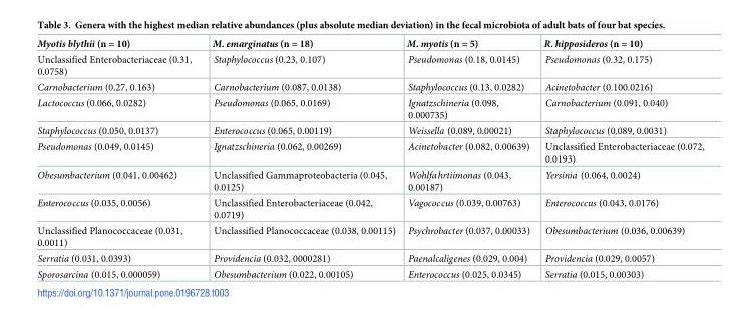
<table><thead><tr><td>Myotis blythii (n = 10)</td><td>M. emarginatus (n = 18)</td><td>M. myotis (n = 5)</td><td>R. hipposideros (n = 10)</td></tr></thead><tbody><tr><td>Unclassified Enterobacteriaceae (0.31, 0.0758)</td><td>Staphylococcus (0.23, 0.107)</td><td>Pseudomonas (0.18, 0.0145)</td><td>Pseudomonas (0.32, 0.175)</td></tr><tr><td>Carnobacterium (0.27, 0.163)</td><td>Carnobacterium (0.087, 0.0138)</td><td>Staphylococcus (0.13, 0.0282)</td><td>Acinetobacter (0.100.0216)</td></tr><tr><td>Lactococcus (0.066, 0.0282)</td><td>Pseudomonas (0.065, 0.0169)</td><td>Ignatzschineria (0.098, 0.000735)</td><td>Carnobacterium (0.091, 0.040)</td></tr><tr><td>Staphylococcus (0.050, 0.0137)</td><td>Enterococcus (0.065, 0.00119)</td><td>Weissella (0.089, 0.00021)</td><td>Staphylococcus (0.089, 0.0031)</td></tr><tr><td>Pseudomonas (0.049, 0.0145)</td><td>Ignatzschineria (0.062, 0.00269)</td><td>Acinetobacter (0.082, 0.00639)</td><td>Unclassified Enterobacteriaceae (0.072, 0.0193)</td></tr><tr><td>Obesumbacterium (0.041, 0.00462)</td><td>Unclassified Gammaproteobacteria (0.045, 0.0125)</td><td>Wohlfahrtiimonas (0.043, 0.00187)</td><td>Yersinia (0.064, 0.0024)</td></tr><tr><td>Enterococcus (0.035, 0.0056)</td><td>Unclassified Enterobacteriaceae (0.042, 0.0719)</td><td>Vagococcus (0.039, 0.00763)</td><td>Enterococcus (0.043, 0.0176)</td></tr><tr><td>Unclassified Planococcaceae (0.031, 0.0011)</td><td>Unclassified Planococcaceae (0.038, 0.00115)</td><td>Psychrobacter (0.037, 0.00033)</td><td>Obesumbacterium (0.036, 0.00639)</td></tr><tr><td>Serratia (0.031, 0.0393)</td><td>Providencia (0.032, 0000281)</td><td>Paenalcaligenes (0.029, 0.004)</td><td>Providencia (0.029, 0.0057)</td></tr><tr><td>Sporosarcina (0.015, 0.000059)</td><td>Obesumbacterium (0.022, 0.00105)</td><td>Enterococcus (0.025, 0.0345)</td><td>Serratia (0.015, 0.00303)</td></tr></tbody></table>